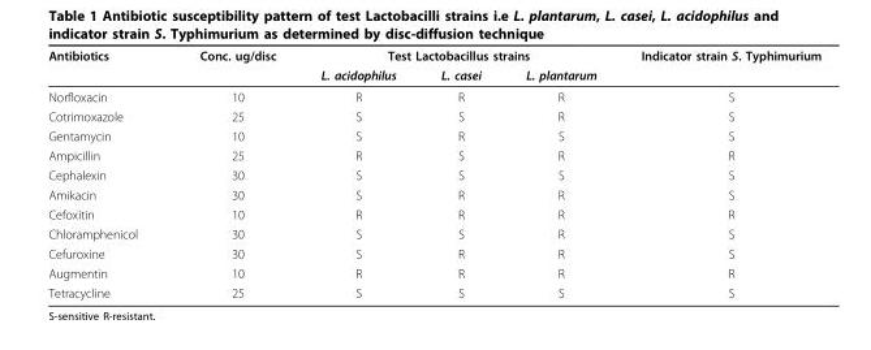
<table><thead><tr><td rowspan="2">Antibiotics</td><td rowspan="2">Conc. ug/disc</td><td colspan="3">Test Lactobacillus strains</td><td rowspan="2">Indicator strain S. Typhimurium</td></tr><tr><td>L. acidophilus</td><td>L. casei</td><td>L. plantarum</td></tr></thead><tbody><tr><td>Norfloxacin</td><td>10</td><td>R</td><td>R</td><td>R</td><td>S</td></tr><tr><td>Cotrimoxazole</td><td>25</td><td>S</td><td>S</td><td>R</td><td>S</td></tr><tr><td>Gentamycin</td><td>10</td><td>S</td><td>R</td><td>S</td><td>S</td></tr><tr><td>Ampicillin</td><td>25</td><td>R</td><td>S</td><td>R</td><td>R</td></tr><tr><td>Cephalexin</td><td>30</td><td>S</td><td>S</td><td>S</td><td>S</td></tr><tr><td>Amikacin</td><td>30</td><td>S</td><td>R</td><td>R</td><td>S</td></tr><tr><td>Cefoxitin</td><td>10</td><td>R</td><td>R</td><td>R</td><td>R</td></tr><tr><td>Chloramphenicol</td><td>30</td><td>S</td><td>S</td><td>R</td><td>S</td></tr><tr><td>Cefuroxine</td><td>30</td><td>S</td><td>R</td><td>R</td><td>S</td></tr><tr><td>Augmentin</td><td>10</td><td>R</td><td>R</td><td>R</td><td>R</td></tr><tr><td>Tetracycline</td><td>25</td><td>S</td><td>S</td><td>S</td><td>S</td></tr></tbody></table>